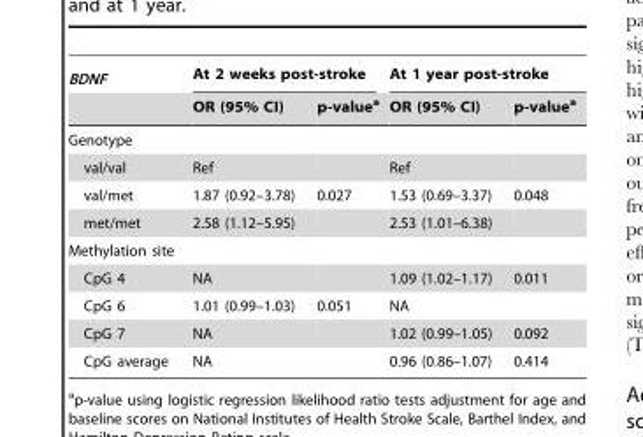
<table><thead><tr><td rowspan="2">BDNF</td><td colspan="2">At 2 weeks post-stroke</td><td colspan="2">At 1 year post-stroke</td></tr><tr><td>OR (95% CI)</td><td>p-value<sup>a</sup></td><td>OR (95% CI)</td><td>p-value<sup>a</sup></td></tr></thead><tbody><tr><td colspan="5">Genotype</td></tr><tr><td>val/val</td><td>Ref</td><td></td><td>Ref</td><td></td></tr><tr><td>val/met</td><td>1.87 (0.92–3.78)</td><td>0.027</td><td>1.53 (0.69–3.37)</td><td>0.048</td></tr><tr><td>met/met</td><td>2.58 (1.12–5.95)</td><td></td><td>2.53 (1.01–6.38)</td><td></td></tr><tr><td colspan="5">Methylation site</td></tr><tr><td>CpG 4</td><td>NA</td><td></td><td>1.09 (1.02–1.17)</td><td>0.011</td></tr><tr><td>CpG 6</td><td>1.01 (0.99–1.03)</td><td>0.051</td><td>NA</td><td></td></tr><tr><td>CpG 7</td><td>NA</td><td></td><td>1.02 (0.99–1.05)</td><td>0.092</td></tr><tr><td>CpG average</td><td>NA</td><td></td><td>0.96 (0.86–1.07)</td><td>0.414</td></tr></tbody></table>